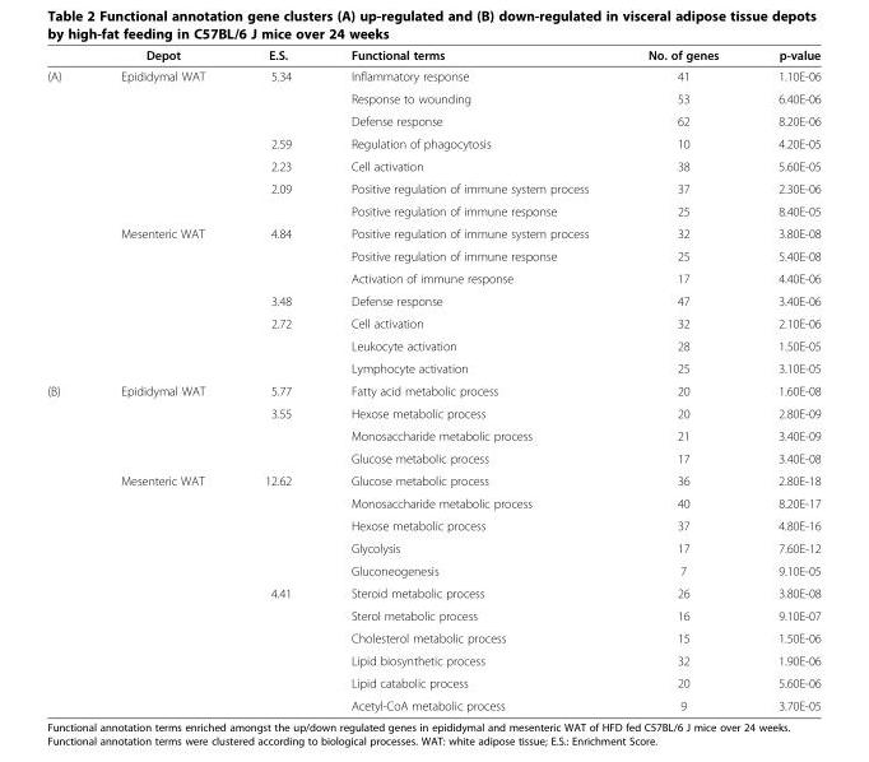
<table><thead><tr><td></td><td>Depot</td><td>E.S.</td><td>Functional terms</td><td>No. of genes</td><td>p-value</td></tr></thead><tbody><tr><td rowspan="14">(A)</td><td>Epididymal WAT</td><td>5.34</td><td>Inflammatory response</td><td>41</td><td>1.10E-06</td></tr><tr><td></td><td></td><td>Response to wounding</td><td>53</td><td>6.40E-06</td></tr><tr><td></td><td></td><td>Defense response</td><td>62</td><td>8.20E-06</td></tr><tr><td></td><td>2.59</td><td>Regulation of phagocytosis</td><td>10</td><td>4.20E-05</td></tr><tr><td></td><td>2.23</td><td>Cell activation</td><td>38</td><td>5.60E-05</td></tr><tr><td></td><td>2.09</td><td>Positive regulation of immune system process</td><td>37</td><td>2.30E-06</td></tr><tr><td></td><td></td><td>Positive regulation of immune response</td><td>25</td><td>8.40E-05</td></tr><tr><td>Mesenteric WAT</td><td>4.84</td><td>Positive regulation of immune system process</td><td>32</td><td>3.80E-08</td></tr><tr><td></td><td></td><td>Positive regulation of immune response</td><td>25</td><td>5.40E-08</td></tr><tr><td></td><td></td><td>Activation of immune response</td><td>17</td><td>4.40E-06</td></tr><tr><td></td><td>3.48</td><td>Defense response</td><td>47</td><td>3.40E-06</td></tr><tr><td></td><td>2.72</td><td>Cell activation</td><td>32</td><td>2.10E-06</td></tr><tr><td></td><td></td><td>Leukocyte activation</td><td>28</td><td>1.50E-05</td></tr><tr><td></td><td></td><td>Lymphocyte activation</td><td>25</td><td>3.10E-05</td></tr><tr><td rowspan="15">(B)</td><td>Epididymal WAT</td><td>5.77</td><td>Fatty acid metabolic process</td><td>20</td><td>1.60E-08</td></tr><tr><td></td><td>3.55</td><td>Hexose metabolic process</td><td>20</td><td>2.80E-09</td></tr><tr><td></td><td></td><td>Monosaccharide metabolic process</td><td>21</td><td>3.40E-09</td></tr><tr><td></td><td></td><td>Glucose metabolic process</td><td>17</td><td>3.40E-08</td></tr><tr><td>Mesenteric WAT</td><td>12.62</td><td>Glucose metabolic process</td><td>36</td><td>2.80E-18</td></tr><tr><td></td><td></td><td>Monosaccharide metabolic process</td><td>40</td><td>8.20E-17</td></tr><tr><td></td><td></td><td>Hexose metabolic process</td><td>37</td><td>4.80E-16</td></tr><tr><td></td><td></td><td>Glycolysis</td><td>17</td><td>7.60E-12</td></tr><tr><td></td><td></td><td>Gluconeogenesis</td><td>7</td><td>9.10E-05</td></tr><tr><td></td><td>4.41</td><td>Steroid metabolic process</td><td>26</td><td>3.80E-08</td></tr><tr><td></td><td></td><td>Sterol metabolic process</td><td>16</td><td>9.10E-07</td></tr><tr><td></td><td></td><td>Cholesterol metabolic process</td><td>15</td><td>1.50E-06</td></tr><tr><td></td><td></td><td>Lipid biosynthetic process</td><td>32</td><td>1.90E-06</td></tr><tr><td></td><td></td><td>Lipid catabolic process</td><td>20</td><td>5.60E-06</td></tr><tr><td></td><td></td><td>Acetyl-CoA metabolic process</td><td>9</td><td>3.70E-05</td></tr></tbody></table>